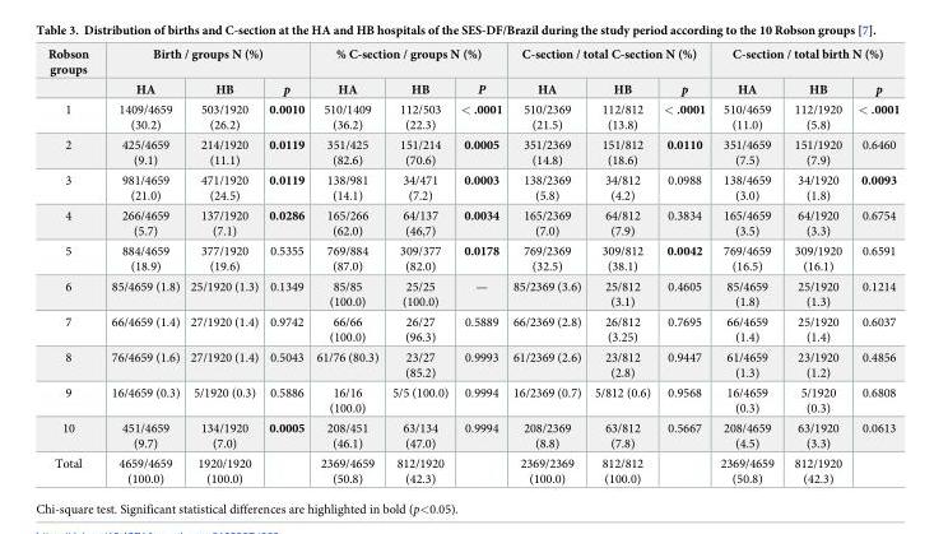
<table><thead><tr><td rowspan="2">Robson groups</td><td colspan="3">Birth / groups N (%)</td><td colspan="3">% C-section / groups N (%)</td><td colspan="3">C-section / total C-section N (%)</td><td colspan="3">C-section / total birth N (%)</td></tr><tr><td>HA</td><td>HB</td><td>p</td><td>HA</td><td>HB</td><td>P</td><td>HA</td><td>HB</td><td>p</td><td>HA</td><td>HB</td><td>p</td></tr></thead><tbody><tr><td>1</td><td>1409/4659 (30.2)</td><td>503/1920 (26.2)</td><td>0.0010</td><td>510/1409 (36.2)</td><td>112/503 (22.3)</td><td>&lt; .0001</td><td>510/2369 (21.5)</td><td>112/812 (13.8)</td><td>&lt; .0001</td><td>510/4659 (11.0)</td><td>112/1920 (5.8)</td><td>&lt; .0001</td></tr><tr><td>2</td><td>425/4659 (9.1)</td><td>214/1920 (11.1)</td><td>0.0119</td><td>351/425 (82.6)</td><td>151/214 (70.6)</td><td>0.0005</td><td>351/2369 (14.8)</td><td>151/812 (18.6)</td><td>0.0110</td><td>351/4659 (7.5)</td><td>151/1920 (7.9)</td><td>0.6460</td></tr><tr><td>3</td><td>981/4659 (21.0)</td><td>471/1920 (24.5)</td><td>0.0119</td><td>138/981 (14.1)</td><td>34/471 (7.2)</td><td>0.0003</td><td>138/2369 (5.8)</td><td>34/812 (4.2)</td><td>0.0988</td><td>138/4659 (3.0)</td><td>34/1920 (1.8)</td><td>0.0093</td></tr><tr><td>4</td><td>266/4659 (5.7)</td><td>137/1920 (7.1)</td><td>0.0286</td><td>165/266 (62.0)</td><td>64/137 (46,7)</td><td>0.0034</td><td>165/2369 (7.0)</td><td>64/812 (7.9)</td><td>0.3834</td><td>165/4659 (3.5)</td><td>64/1920 (3.3)</td><td>0.6754</td></tr><tr><td>5</td><td>884/4659 (18.9)</td><td>377/1920 (19.6)</td><td>0.5355</td><td>769/884 (87.0)</td><td>309/377 (82.0)</td><td>0.0178</td><td>769/2369 (32.5)</td><td>309/812 (38.1)</td><td>0.0042</td><td>769/4659 (16.5)</td><td>309/1920 (16.1)</td><td>0.6591</td></tr><tr><td>6</td><td>85/4659 (1.8)</td><td>25/1920 (1.3)</td><td>0.1349</td><td>85/85 (100.0)</td><td>25/25 (100.0)</td><td>—</td><td>85/2369 (3.6)</td><td>25/812 (3.1)</td><td>0.4605</td><td>85/4659 (1.8)</td><td>25/1920 (1.3)</td><td>0.1214</td></tr><tr><td>7</td><td>66/4659 (1.4)</td><td>27/1920 (1.4)</td><td>0.9742</td><td>66/66 (100.0)</td><td>26/27 (96.3)</td><td>0.5889</td><td>66/2369 (2.8)</td><td>26/812 (3.25)</td><td>0.7695</td><td>66/4659 (1.4)</td><td>25/1920 (1.4)</td><td>0.6037</td></tr><tr><td>8</td><td>76/4659 (1.6)</td><td>27/1920 (1.4)</td><td>0.5043</td><td>61/76 (80.3)</td><td>23/27 (85.2)</td><td>0.9993</td><td>61/2369 (2.6)</td><td>23/812 (2.8)</td><td>0.9447</td><td>61/4659 (1.3)</td><td>23/1920 (1.2)</td><td>0.4856</td></tr><tr><td>9</td><td>16/4659 (0.3)</td><td>5/1920 (0.3)</td><td>0.5886</td><td>16/16 (100.0)</td><td>5/5 (100.0)</td><td>0.9994</td><td>16/2369 (0.7)</td><td>5/812 (0.6)</td><td>0.9568</td><td>16/4659 (0.3)</td><td>5/1920 (0.3)</td><td>0.6808</td></tr><tr><td>10</td><td>451/4659 (9.7)</td><td>134/1920 (7.0)</td><td>0.0005</td><td>208/451 (46.1)</td><td>63/134 (47.0)</td><td>0.9994</td><td>208/2369 (8.8)</td><td>63/812 (7.8)</td><td>0.5667</td><td>208/4659 (4.5)</td><td>63/1920 (3.3)</td><td>0.0613</td></tr><tr><td>Total</td><td>4659/4659 (100.0)</td><td>1920/1920 (100.0)</td><td></td><td>2369/4659 (50.8)</td><td>812/1920 (42.3)</td><td></td><td>2369/2369 (100.0)</td><td>812/812 (100.0)</td><td></td><td>2369/4659 (50.8)</td><td>812/1920 (42.3)</td><td></td></tr></tbody></table>